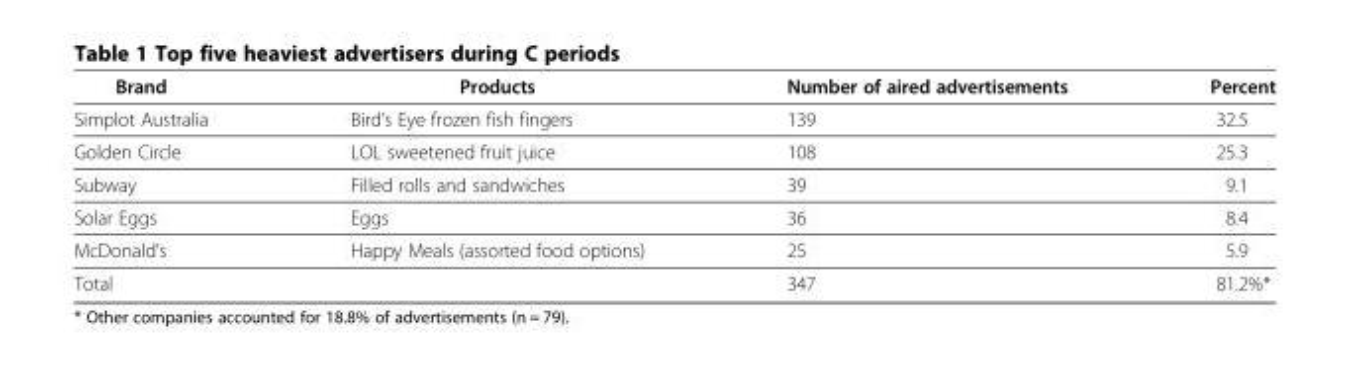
<table><thead><tr><td>Brand</td><td>Products</td><td>Number of aired advertisements</td><td>Percent</td></tr></thead><tbody><tr><td>Simplot Australia</td><td>Bird’s Eye frozen fish fingers</td><td>139</td><td>32.5</td></tr><tr><td>Golden Circle</td><td>LOL sweetened fruit juice</td><td>108</td><td>25.3</td></tr><tr><td>Subway</td><td>Filled rolls and sandwiches</td><td>39</td><td>9.1</td></tr><tr><td>Solar Eggs</td><td>Eggs</td><td>36</td><td>8.4</td></tr><tr><td>McDonald’s</td><td>Happy Meals (assorted food options)</td><td>25</td><td>5.9</td></tr><tr><td>Total</td><td></td><td>347</td><td>81.2%*</td></tr></tbody></table>